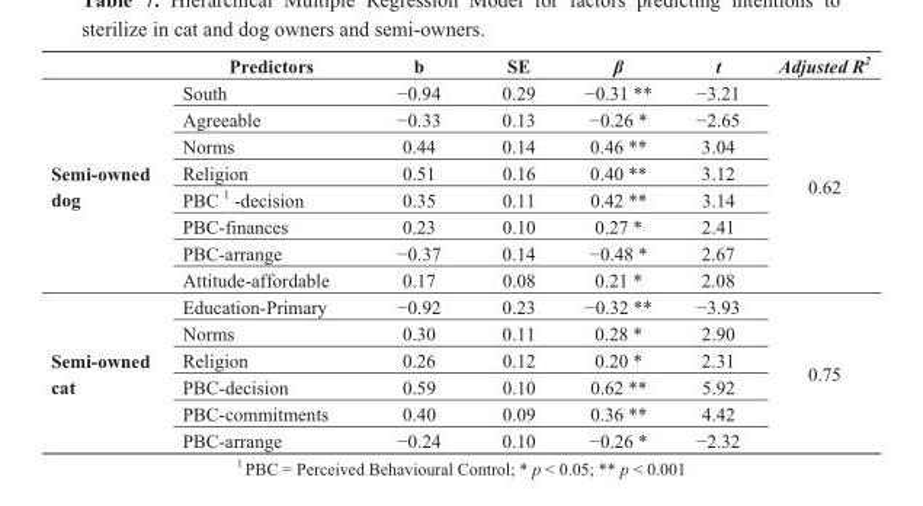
<table><thead><tr><td></td><td>Predictors</td><td>b</td><td>SE</td><td>β</td><td>t</td><td>Adjusted R<sup>2</sup></td></tr></thead><tbody><tr><td rowspan="8">Semi-owned dog</td><td>South</td><td>−0.94</td><td>0.29</td><td>−0.31 **</td><td>−3.21</td><td rowspan="8">0.62</td></tr><tr><td>Agreeable</td><td>−0.33</td><td>0.13</td><td>−0.26 *</td><td>−2.65</td></tr><tr><td>Norms</td><td>0.44</td><td>0.14</td><td>0.46 **</td><td>3.04</td></tr><tr><td>Religion</td><td>0.51</td><td>0.16</td><td>0.40 **</td><td>3.12</td></tr><tr><td>PBC <sup>1</sup> -decision</td><td>0.35</td><td>0.11</td><td>0.42 **</td><td>3.14</td></tr><tr><td>PBC-finances</td><td>0.23</td><td>0.10</td><td>0.27 *</td><td>2.41</td></tr><tr><td>PBC-arrange</td><td>−0.37</td><td>0.14</td><td>−0.48 *</td><td>2.67</td></tr><tr><td>Attitude-affordable</td><td>0.17</td><td>0.08</td><td>0.21 *</td><td>2.08</td></tr><tr><td rowspan="6">Semi-owned cat</td><td>Education-Primary</td><td>−0.92</td><td>0.23</td><td>−0.32 **</td><td>−3.93</td><td rowspan="6">0.75</td></tr><tr><td>Norms</td><td>0.30</td><td>0.11</td><td>0.28 *</td><td>2.90</td></tr><tr><td>Religion</td><td>0.26</td><td>0.12</td><td>0.20 *</td><td>2.31</td></tr><tr><td>PBC-decision</td><td>0.59</td><td>0.10</td><td>0.62 **</td><td>5.92</td></tr><tr><td>PBC-commitments</td><td>0.40</td><td>0.09</td><td>0.36 **</td><td>4.42</td></tr><tr><td>PBC-arrange</td><td>−0.24</td><td>0.10</td><td>−0.26 *</td><td>−2.32</td></tr></tbody></table>